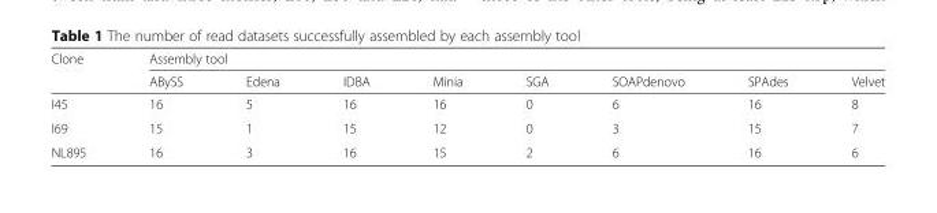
<table><thead><tr><td rowspan="2">Clone</td><td colspan="8">Assembly tool</td></tr><tr><td>ABySS</td><td>Edena</td><td>IDBA</td><td>Minia</td><td>SGA</td><td>SOAPdenovo</td><td>SPAdes</td><td>Velvet</td></tr></thead><tbody><tr><td>I45</td><td>16</td><td>5</td><td>16</td><td>16</td><td>0</td><td>6</td><td>16</td><td>8</td></tr><tr><td>I69</td><td>15</td><td>1</td><td>15</td><td>12</td><td>0</td><td>3</td><td>15</td><td>7</td></tr><tr><td>NL895</td><td>16</td><td>3</td><td>16</td><td>15</td><td>2</td><td>6</td><td>16</td><td>6</td></tr></tbody></table>